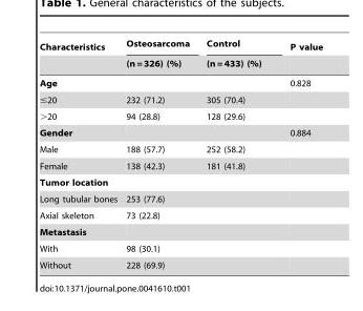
<table><thead><tr><td rowspan="2">Characteristics</td><td rowspan="2">Osteosarcoma (n = 326) (%)</td><td rowspan="2">Control (n = 433) (%)</td><td rowspan="2">P value</td></tr><tr></tr></thead><tbody><tr><td>Age</td><td></td><td></td><td>0.828</td></tr><tr><td>≤20</td><td>232 (71.2)</td><td>305 (70.4)</td><td></td></tr><tr><td>&gt;20</td><td>94 (28.8)</td><td>128 (29.6)</td><td></td></tr><tr><td>Gender</td><td></td><td></td><td>0.884</td></tr><tr><td>Male</td><td>188 (57.7)</td><td>252 (58.2)</td><td></td></tr><tr><td>Female</td><td>138 (42.3)</td><td>181 (41.8)</td><td></td></tr><tr><td colspan="4">Tumor location</td></tr><tr><td>Long tubular bones</td><td>253 (77.6)</td><td></td><td></td></tr><tr><td>Axial skeleton</td><td>73 (22.8)</td><td></td><td></td></tr><tr><td colspan="4">Metastasis</td></tr><tr><td>With</td><td>98 (30.1)</td><td></td><td></td></tr><tr><td>Without</td><td>228 (69.9)</td><td></td><td></td></tr></tbody></table>